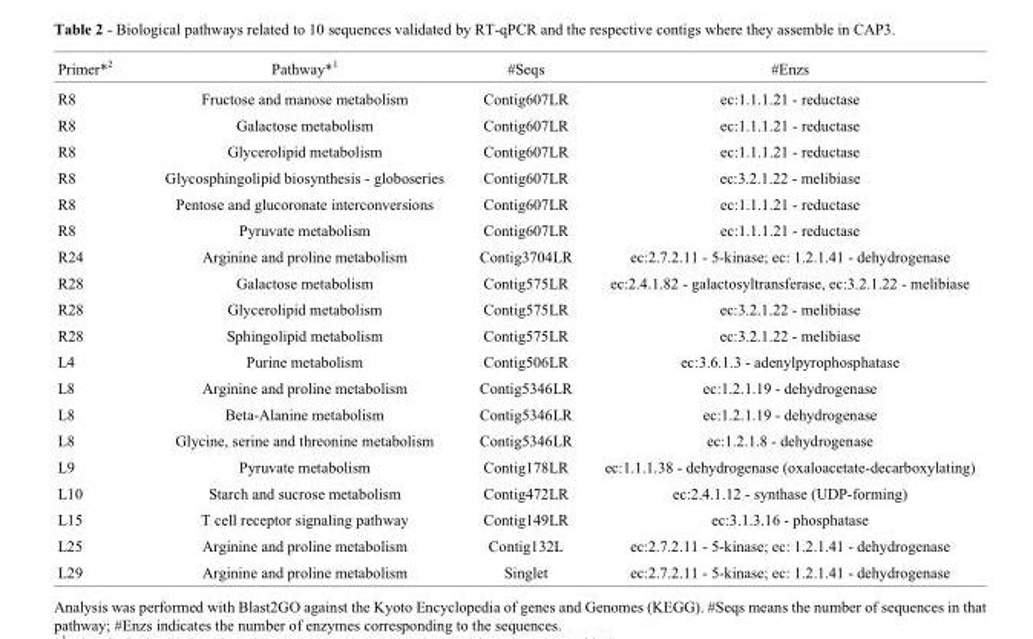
<table><thead><tr><td>Primer*2</td><td>Pathway*1</td><td>#Seqs</td><td>#Enzs</td></tr></thead><tbody><tr><td>R8</td><td>Fructose and manose metabolism</td><td>Contig607LR</td><td>ec:1.1.1.21 - reductase</td></tr><tr><td>R8</td><td>Galactose metabolism</td><td>Contig607LR</td><td>ec:1.1.1.21 - reductase</td></tr><tr><td>R8</td><td>Glycerolipid metabolism</td><td>Contig607LR</td><td>ec:1.1.1.21 - reductase</td></tr><tr><td>R8</td><td>Glycosphingolipid biosynthesis - globoseries</td><td>Contig607LR</td><td>ec:3.2.1.22 - melibiase</td></tr><tr><td>R8</td><td>Pentose and glucoronate interconversions</td><td>Contig607LR</td><td>ec:1.1.1.21 - reductase</td></tr><tr><td>R8</td><td>Pyruvate metabolism</td><td>Contig607LR</td><td>ec:1.1.1.21 - reductase</td></tr><tr><td>R24</td><td>Arginine and proline metabolism</td><td>Contig3704LR</td><td>ec:2.7.2.11 - 5-kinase; ec: 1.2.1.41 - dehydrogenase</td></tr><tr><td>R28</td><td>Galactose metabolism</td><td>Contig575LR</td><td>ec:2.4.1.82 - galactosyltransferase, ec:3.2.1.22 - melibiase</td></tr><tr><td>R28</td><td>Glycerolipid metabolism</td><td>Contig575LR</td><td>ec:3.2.1.22 - melibiase</td></tr><tr><td>R28</td><td>Sphingolipid metabolism</td><td>Contig575LR</td><td>ec:3.2.1.22 - melibiase</td></tr><tr><td>L4</td><td>Purine metabolism</td><td>Contig506LR</td><td>ec:3.6.1.3 - adenylpyrophosphatase</td></tr><tr><td>L8</td><td>Arginine and proline metabolism</td><td>Contig5346LR</td><td>ec:1.2.1.19 - dehydrogenase</td></tr><tr><td>L8</td><td>Beta-Alanine metabolism</td><td>Contig5346LR</td><td>ec:1.2.1.19 - dehydrogenase</td></tr><tr><td>L8</td><td>Glycine, serine and threonine metabolism</td><td>Contig5346LR</td><td>ec:1.2.1.8 - dehydrogenase</td></tr><tr><td>L9</td><td>Pyruvate metabolism</td><td>Contig178LR</td><td>ec:1.1.1.38 - dehydrogenase (oxaloacetate-decarboxylating)</td></tr><tr><td>L10</td><td>Starch and sucrose metabolism</td><td>Contig472LR</td><td>ec:2.4.1.12 - synthase (UDP-forming)</td></tr><tr><td>L15</td><td>T cell receptor signaling pathway</td><td>Contig149LR</td><td>ec:3.1.3.16 - phosphatase</td></tr><tr><td>L25</td><td>Arginine and proline metabolism</td><td>Contig132L</td><td>ec:2.7.2.11 - 5-kinase; ec: 1.2.1.41 - dehydrogenase</td></tr><tr><td>L29</td><td>Arginine and proline metabolism</td><td>Singlet</td><td>ec:2.7.2.11 - 5-kinase; ec: 1.2.1.41 - dehydrogenase</td></tr></tbody></table>